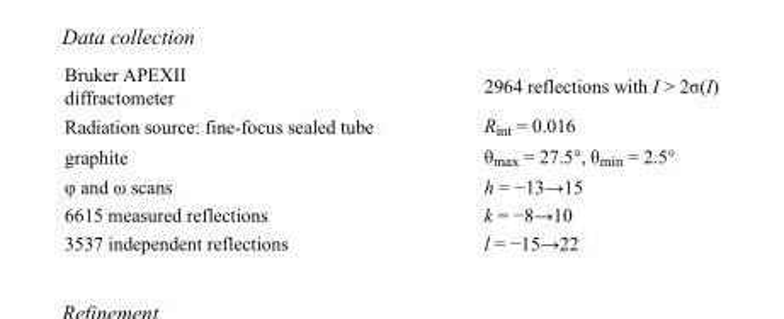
<table><tbody><tr><td>Bruker APEXII diffractometer</td><td>2964 reflections with I &gt; 2σ(I)</td></tr><tr><td>Radiation source: fine-focus sealed tube</td><td>R<sub>int</sub> = 0.016</td></tr><tr><td>graphite</td><td>θ<sub>max</sub> = 27.5°, θ<sub>min</sub> = 2.5°</td></tr><tr><td>φ and ω scans</td><td>h = −13→15</td></tr><tr><td>6615 measured reflections</td><td>k = −8→10</td></tr><tr><td>3537 independent reflections</td><td>l = −15→22</td></tr></tbody></table>